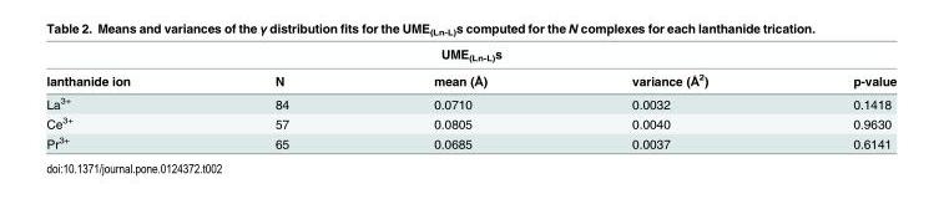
<table><thead><tr><td colspan="5">UME<sub>(Ln-L)</sub>s</td></tr><tr><td>lanthanide ion</td><td>N</td><td>mean (Å)</td><td>variance (Å<sup>2</sup>)</td><td>p-value</td></tr></thead><tbody><tr><td>La<sup>3+</sup></td><td>84</td><td>0.0710</td><td>0.0032</td><td>0.1418</td></tr><tr><td>Ce<sup>3+</sup></td><td>57</td><td>0.0805</td><td>0.0040</td><td>0.9630</td></tr><tr><td>Pr<sup>3+</sup></td><td>65</td><td>0.0685</td><td>0.0037</td><td>0.6141</td></tr></tbody></table>